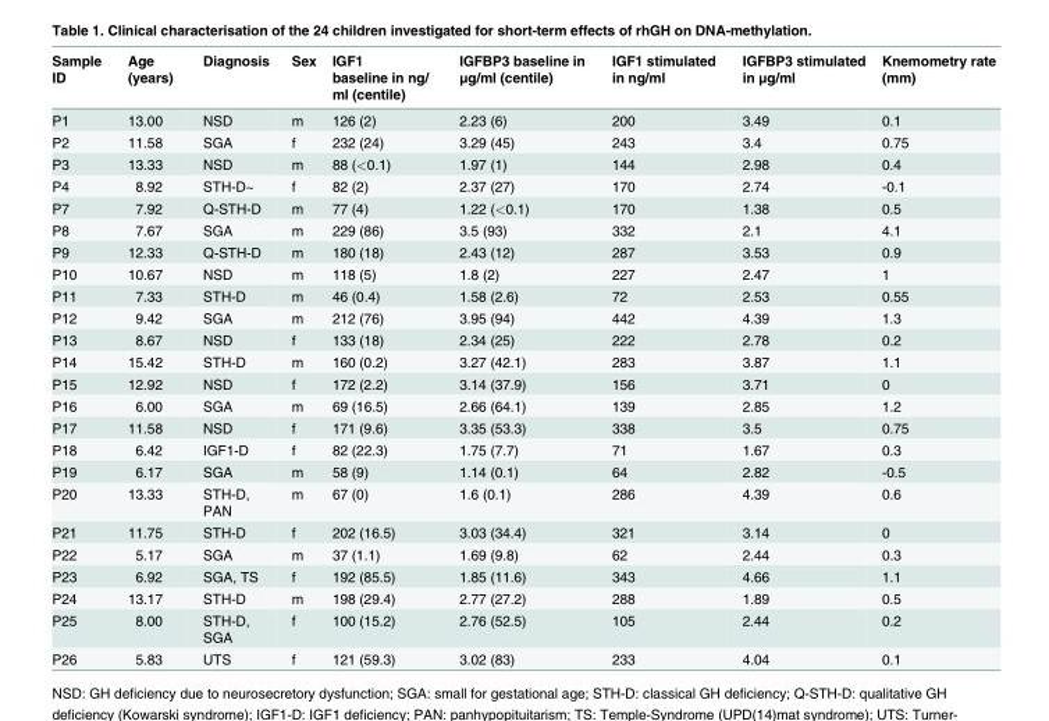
<table><thead><tr><td rowspan="2">Sample ID</td><td rowspan="2">Age (years)</td><td rowspan="2">Diagnosis</td><td rowspan="2">Sex</td><td rowspan="2">IGF1 baseline in ng/ ml (centile)</td><td rowspan="2">IGFBP3 baseline in μg/ml (centile)</td><td rowspan="2">IGF1 stimulated in ng/ml</td><td rowspan="2">IGFBP3 stimulated in μg/ml</td><td rowspan="2">Knemometry rate (mm)</td></tr><tr></tr></thead><tbody><tr><td>P1</td><td>13.00</td><td>NSD</td><td>m</td><td>126 (2)</td><td>2.23 (6)</td><td>200</td><td>3.49</td><td>0.1</td></tr><tr><td>P2</td><td>11.58</td><td>SGA</td><td>f</td><td>232 (24)</td><td>3.29 (45)</td><td>243</td><td>3.4</td><td>0.75</td></tr><tr><td>P3</td><td>13.33</td><td>NSD</td><td>m</td><td>88 (&lt;0.1)</td><td>1.97 (1)</td><td>144</td><td>2.98</td><td>0.4</td></tr><tr><td>P4</td><td>8.92</td><td>STH-D~</td><td>f</td><td>82 (2)</td><td>2.37 (27)</td><td>170</td><td>2.74</td><td>-0.1</td></tr><tr><td>P7</td><td>7.92</td><td>Q-STH-D</td><td>m</td><td>77 (4)</td><td>1.22 (&lt;0.1)</td><td>170</td><td>1.38</td><td>0.5</td></tr><tr><td>P8</td><td>7.67</td><td>SGA</td><td>m</td><td>229 (86)</td><td>3.5 (93)</td><td>332</td><td>2.1</td><td>4.1</td></tr><tr><td>P9</td><td>12.33</td><td>Q-STH-D</td><td>m</td><td>180 (18)</td><td>2.43 (12)</td><td>287</td><td>3.53</td><td>0.9</td></tr><tr><td>P10</td><td>10.67</td><td>NSD</td><td>m</td><td>118 (5)</td><td>1.8 (2)</td><td>227</td><td>2.47</td><td>1</td></tr><tr><td>P11</td><td>7.33</td><td>STH-D</td><td>m</td><td>46 (0.4)</td><td>1.58 (2.6)</td><td>72</td><td>2.53</td><td>0.55</td></tr><tr><td>P12</td><td>9.42</td><td>SGA</td><td>m</td><td>212 (76)</td><td>3.95 (94)</td><td>442</td><td>4.39</td><td>1.3</td></tr><tr><td>P13</td><td>8.67</td><td>NSD</td><td>f</td><td>133 (18)</td><td>2.34 (25)</td><td>222</td><td>2.78</td><td>0.2</td></tr><tr><td>P14</td><td>15.42</td><td>STH-D</td><td>m</td><td>160 (0.2)</td><td>3.27 (42.1)</td><td>283</td><td>3.87</td><td>1.1</td></tr><tr><td>P15</td><td>12.92</td><td>NSD</td><td>f</td><td>172 (2.2)</td><td>3.14 (37.9)</td><td>156</td><td>3.71</td><td>0</td></tr><tr><td>P16</td><td>6.00</td><td>SGA</td><td>m</td><td>69 (16.5)</td><td>2.66 (64.1)</td><td>139</td><td>2.85</td><td>1.2</td></tr><tr><td>P17</td><td>11.58</td><td>NSD</td><td>f</td><td>171 (9.6)</td><td>3.35 (53.3)</td><td>338</td><td>3.5</td><td>0.75</td></tr><tr><td>P18</td><td>6.42</td><td>IGF1-D</td><td>f</td><td>82 (22.3)</td><td>1.75 (7.7)</td><td>71</td><td>1.67</td><td>0.3</td></tr><tr><td>P19</td><td>6.17</td><td>SGA</td><td>m</td><td>58 (9)</td><td>1.14 (0.1)</td><td>64</td><td>2.82</td><td>-0.5</td></tr><tr><td>P20</td><td>13.33</td><td>STH-D, PAN</td><td>m</td><td>67 (0)</td><td>1.6 (0.1)</td><td>286</td><td>4.39</td><td>0.6</td></tr><tr><td>P21</td><td>11.75</td><td>STH-D</td><td>f</td><td>202 (16.5)</td><td>3.03 (34.4)</td><td>321</td><td>3.14</td><td>0</td></tr><tr><td>P22</td><td>5.17</td><td>SGA</td><td>m</td><td>37 (1.1)</td><td>1.69 (9.8)</td><td>62</td><td>2.44</td><td>0.3</td></tr><tr><td>P23</td><td>6.92</td><td>SGA, TS</td><td>f</td><td>192 (85.5)</td><td>1.85 (11.6)</td><td>343</td><td>4.66</td><td>1.1</td></tr><tr><td>P24</td><td>13.17</td><td>STH-D</td><td>m</td><td>198 (29.4)</td><td>2.77 (27.2)</td><td>288</td><td>1.89</td><td>0.5</td></tr><tr><td>P25</td><td>8.00</td><td>STH-D, SGA</td><td>f</td><td>100 (15.2)</td><td>2.76 (52.5)</td><td>105</td><td>2.44</td><td>0.2</td></tr><tr><td>P26</td><td>5.83</td><td>UTS</td><td>f</td><td>121 (59.3)</td><td>3.02 (83)</td><td>233</td><td>4.04</td><td>0.1</td></tr></tbody></table>